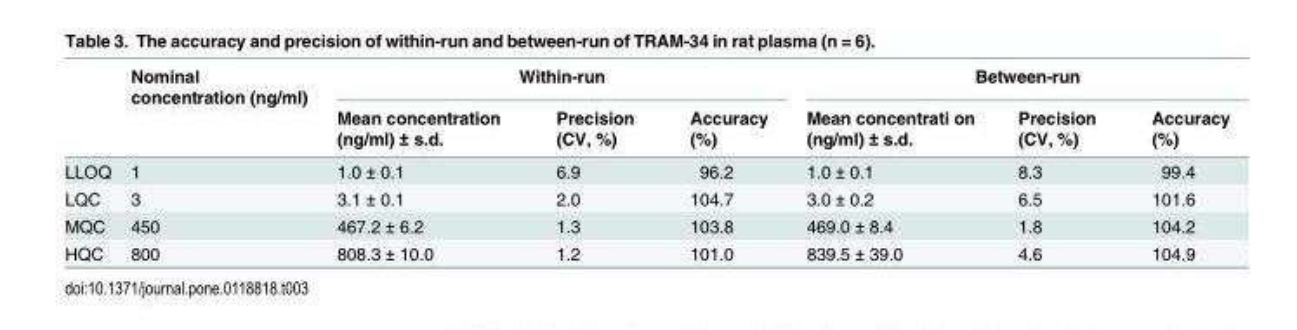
<table><thead><tr><td rowspan="2"></td><td rowspan="2">Nominal concentration (ng/ml)</td><td colspan="3">Within-run</td><td colspan="3">Between-run</td></tr><tr><td>Mean concentration (ng/ml) ± s.d.</td><td>Precision (CV, %)</td><td>Accuracy (%)</td><td>Mean concentrati on (ng/ml) ± s.d.</td><td>Precision (CV, %)</td><td>Accuracy (%)</td></tr></thead><tbody><tr><td>LLOQ</td><td>1</td><td>1.0 ± 0.1</td><td>6.9</td><td>96.2</td><td>1.0 ± 0.1</td><td>8.3</td><td>99.4</td></tr><tr><td>LQC</td><td>3</td><td>3.1 ± 0.1</td><td>2.0</td><td>104.7</td><td>3.0 ± 0.2</td><td>6.5</td><td>101.6</td></tr><tr><td>MQC</td><td>450</td><td>467.2 ± 6.2</td><td>1.3</td><td>103.8</td><td>469.0 ± 8.4</td><td>1.8</td><td>104.2</td></tr><tr><td>HQC</td><td>800</td><td>808.3 ± 10.0</td><td>1.2</td><td>101.0</td><td>839.5 ± 39.0</td><td>4.6</td><td>104.9</td></tr></tbody></table>